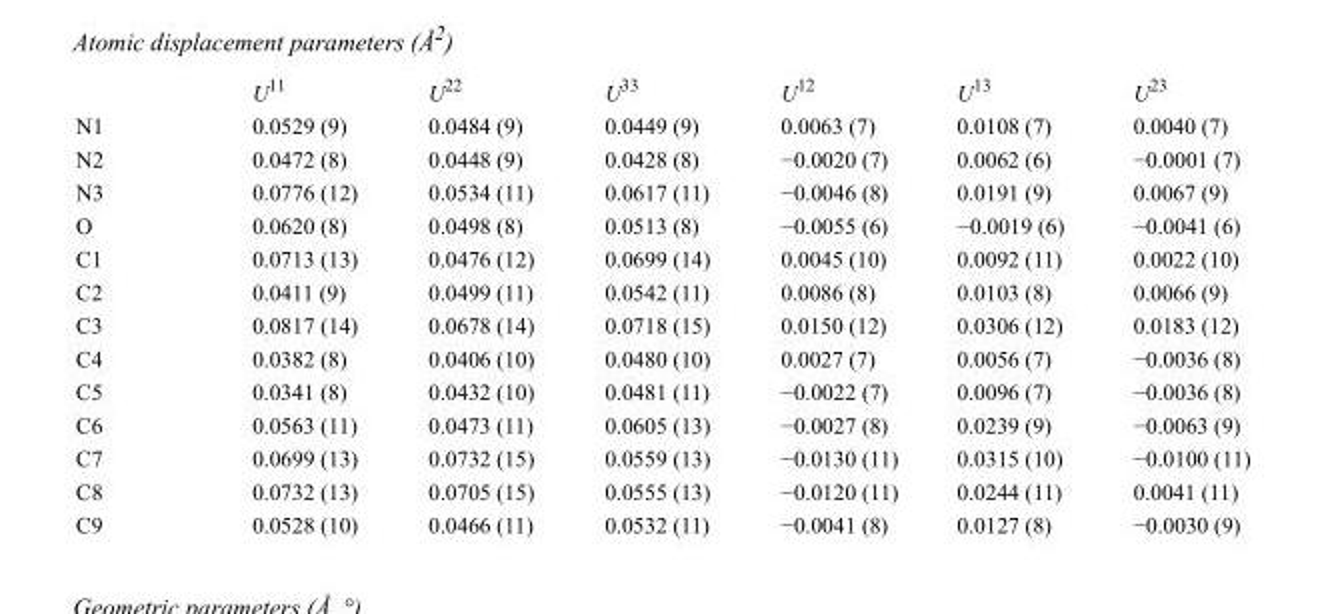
<table><thead><tr><td></td><td>U<sup>11</sup></td><td>U<sup>22</sup></td><td>U<sup>33</sup></td><td>U<sup>12</sup></td><td>U<sup>13</sup></td><td>U<sup>23</sup></td></tr></thead><tbody><tr><td>N1</td><td>0.0529 (9)</td><td>0.0484 (9)</td><td>0.0449 (9)</td><td>0.0063 (7)</td><td>0.0108 (7)</td><td>0.0040 (7)</td></tr><tr><td>N2</td><td>0.0472 (8)</td><td>0.0448 (9)</td><td>0.0428 (8)</td><td>−0.0020 (7)</td><td>0.0062 (6)</td><td>−0.0001 (7)</td></tr><tr><td>N3</td><td>0.0776 (12)</td><td>0.0534 (11)</td><td>0.0617 (11)</td><td>−0.0046 (8)</td><td>0.0191 (9)</td><td>0.0067 (9)</td></tr><tr><td>O</td><td>0.0620 (8)</td><td>0.0498 (8)</td><td>0.0513 (8)</td><td>−0.0055 (6)</td><td>−0.0019 (6)</td><td>−0.0041 (6)</td></tr><tr><td>C1</td><td>0.0713 (13)</td><td>0.0476 (12)</td><td>0.0699 (14)</td><td>0.0045 (10)</td><td>0.0092 (11)</td><td>0.0022 (10)</td></tr><tr><td>C2</td><td>0.0411 (9)</td><td>0.0499 (11)</td><td>0.0542 (11)</td><td>0.0086 (8)</td><td>0.0103 (8)</td><td>0.0066 (9)</td></tr><tr><td>C3</td><td>0.0817 (14)</td><td>0.0678 (14)</td><td>0.0718 (15)</td><td>0.0150 (12)</td><td>0.0306 (12)</td><td>0.0183 (12)</td></tr><tr><td>C4</td><td>0.0382 (8)</td><td>0.0406 (10)</td><td>0.0480 (10)</td><td>0.0027 (7)</td><td>0.0056 (7)</td><td>−0.0036 (8)</td></tr><tr><td>C5</td><td>0.0341 (8)</td><td>0.0432 (10)</td><td>0.0481 (11)</td><td>−0.0022 (7)</td><td>0.0096 (7)</td><td>−0.0036 (8)</td></tr><tr><td>C6</td><td>0.0563 (11)</td><td>0.0473 (11)</td><td>0.0605 (13)</td><td>−0.0027 (8)</td><td>0.0239 (9)</td><td>−0.0063 (9)</td></tr><tr><td>C7</td><td>0.0699 (13)</td><td>0.0732 (15)</td><td>0.0559 (13)</td><td>−0.0130 (11)</td><td>0.0315 (10)</td><td>−0.0100 (11)</td></tr><tr><td>C8</td><td>0.0732 (13)</td><td>0.0705 (15)</td><td>0.0555 (13)</td><td>−0.0120 (11)</td><td>0.0244 (11)</td><td>0.0041 (11)</td></tr><tr><td>C9</td><td>0.0528 (10)</td><td>0.0466 (11)</td><td>0.0532 (11)</td><td>−0.0041 (8)</td><td>0.0127 (8)</td><td>−0.0030 (9)</td></tr></tbody></table>